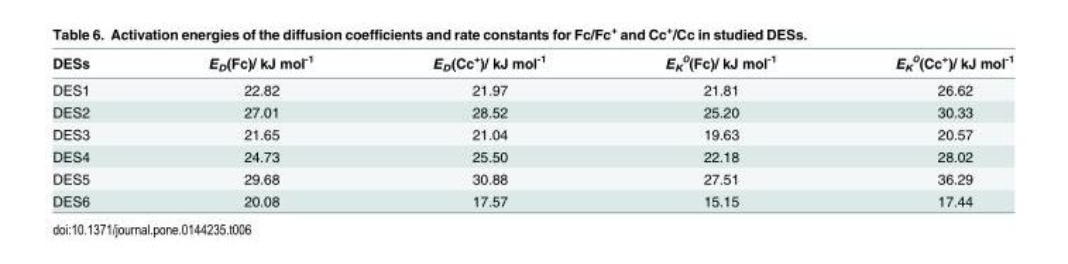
<table><thead><tr><td>DESs</td><td>E<sub>D</sub>(Fc)/ kJ mol<sup>-1</sup></td><td>E<sub>D</sub>(Cc<sup>+</sup>)/ kJ mol<sup>-1</sup></td><td>E<sub>K</sub> <sup>0</sup>(Fc)/ kJ mol<sup>-1</sup></td><td>E<sub>K</sub> <sup>0</sup>(Cc<sup>+</sup>)/ kJ mol<sup>-1</sup></td></tr></thead><tbody><tr><td>DES1</td><td>22.82</td><td>21.97</td><td>21.81</td><td>26.62</td></tr><tr><td>DES2</td><td>27.01</td><td>28.52</td><td>25.20</td><td>30.33</td></tr><tr><td>DES3</td><td>21.65</td><td>21.04</td><td>19.63</td><td>20.57</td></tr><tr><td>DES4</td><td>24.73</td><td>25.50</td><td>22.18</td><td>28.02</td></tr><tr><td>DES5</td><td>29.68</td><td>30.88</td><td>27.51</td><td>36.29</td></tr><tr><td>DES6</td><td>20.08</td><td>17.57</td><td>15.15</td><td>17.44</td></tr></tbody></table>